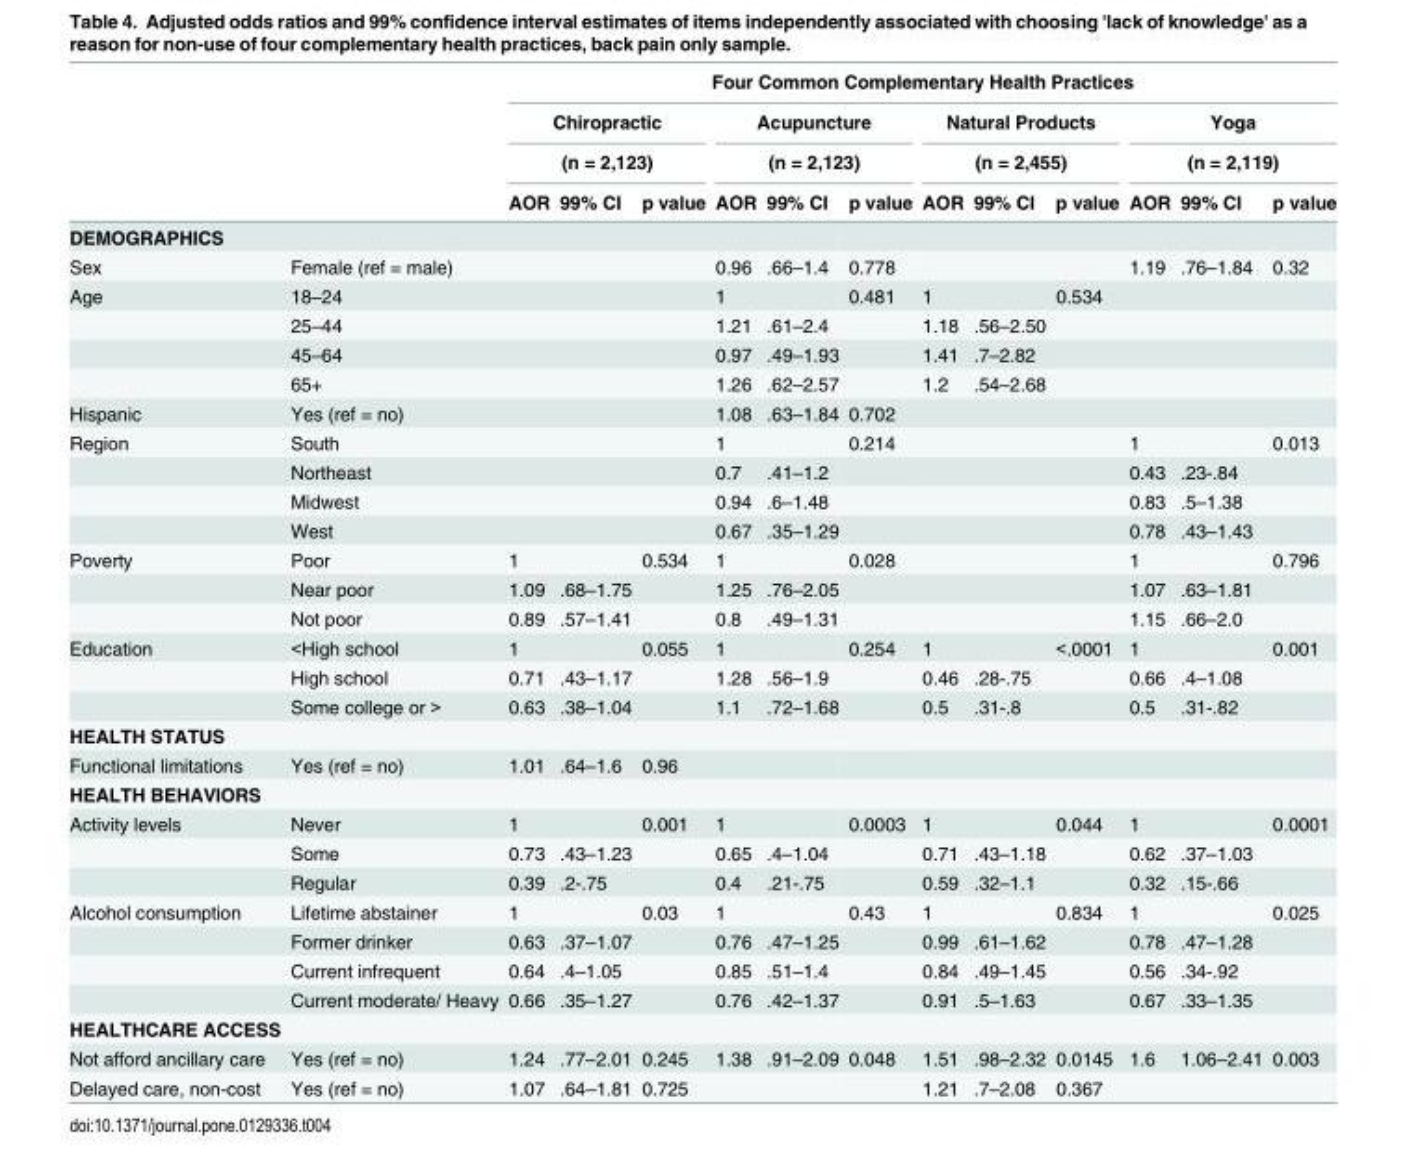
<table><thead><tr><td rowspan="4"></td><td rowspan="4"></td><td colspan="12">Four Common Complementary Health Practices</td></tr><tr><td rowspan="2" colspan="3">Chiropractic (n = 2,123)</td><td rowspan="2" colspan="3">Acupuncture (n = 2,123)</td><td rowspan="2" colspan="3">Natural Products (n = 2,455)</td><td rowspan="2" colspan="3">Yoga (n = 2,119)</td></tr><tr></tr><tr><td>AOR</td><td>99% CI</td><td>p value</td><td>AOR</td><td>99% CI</td><td>p value</td><td>AOR</td><td>99% CI</td><td>p value</td><td>AOR</td><td>99% CI</td><td>p value</td></tr></thead><tbody><tr><td colspan="14">DEMOGRAPHICS</td></tr><tr><td>Sex</td><td>Female (ref = male)</td><td></td><td></td><td></td><td>0.96</td><td>.66–1.4</td><td>0.778</td><td></td><td></td><td></td><td>1.19</td><td>.76–1.84</td><td>0.32</td></tr><tr><td rowspan="4">Age</td><td>18–24</td><td></td><td></td><td></td><td>1</td><td></td><td>0.481</td><td>1</td><td></td><td>0.534</td><td></td><td></td><td></td></tr><tr><td>25–44</td><td></td><td></td><td></td><td>1.21</td><td>.61–2.4</td><td></td><td>1.18</td><td>.56–2.50</td><td></td><td></td><td></td><td></td></tr><tr><td>45–64</td><td></td><td></td><td></td><td>0.97</td><td>.49–1.93</td><td></td><td>1.41</td><td>.7–2.82</td><td></td><td></td><td></td><td></td></tr><tr><td>65+</td><td></td><td></td><td></td><td>1.26</td><td>.62–2.57</td><td></td><td>1.2</td><td>.54–2.68</td><td></td><td></td><td></td><td></td></tr><tr><td>Hispanic</td><td>Yes (ref = no)</td><td></td><td></td><td></td><td>1.08</td><td>.63–1.84</td><td>0.702</td><td></td><td></td><td></td><td></td><td></td><td></td></tr><tr><td rowspan="4">Region</td><td>South</td><td></td><td></td><td></td><td>1</td><td></td><td>0.214</td><td></td><td></td><td></td><td>1</td><td></td><td>0.013</td></tr><tr><td>Northeast</td><td></td><td></td><td></td><td>0.7</td><td>.41–1.2</td><td></td><td></td><td></td><td></td><td>0.43</td><td>.23-.84</td><td></td></tr><tr><td>Midwest</td><td></td><td></td><td></td><td>0.94</td><td>.6–1.48</td><td></td><td></td><td></td><td></td><td>0.83</td><td>.5–1.38</td><td></td></tr><tr><td>West</td><td></td><td></td><td></td><td>0.67</td><td>.35–1.29</td><td></td><td></td><td></td><td></td><td>0.78</td><td>.43–1.43</td><td></td></tr><tr><td rowspan="3">Poverty</td><td>Poor</td><td>1</td><td></td><td>0.534</td><td>1</td><td></td><td>0.028</td><td></td><td></td><td></td><td>1</td><td></td><td>0.796</td></tr><tr><td>Near poor</td><td>1.09</td><td>.68–1.75</td><td></td><td>1.25</td><td>.76–2.05</td><td></td><td></td><td></td><td></td><td>1.07</td><td>.63–1.81</td><td></td></tr><tr><td>Not poor</td><td>0.89</td><td>.57–1.41</td><td></td><td>0.8</td><td>.49–1.31</td><td></td><td></td><td></td><td></td><td>1.15</td><td>.66–2.0</td><td></td></tr><tr><td rowspan="3">Education</td><td>&lt;High school</td><td>1</td><td></td><td>0.055</td><td>1</td><td></td><td>0.254</td><td>1</td><td></td><td>&lt;.0001</td><td>1</td><td></td><td>0.001</td></tr><tr><td>High school</td><td>0.71</td><td>.43–1.17</td><td></td><td>1.28</td><td>.56–1.9</td><td></td><td>0.46</td><td>.28-.75</td><td></td><td>0.66</td><td>.4–1.08</td><td></td></tr><tr><td>Some college or &gt;</td><td>0.63</td><td>.38–1.04</td><td></td><td>1.1</td><td>.72–1.68</td><td></td><td>0.5</td><td>.31-.8</td><td></td><td>0.5</td><td>.31-.82</td><td></td></tr><tr><td colspan="14">HEALTH STATUS</td></tr><tr><td>Functional limitations</td><td>Yes (ref = no)</td><td>1.01</td><td>.64–1.6</td><td>0.96</td><td></td><td></td><td></td><td></td><td></td><td></td><td></td><td></td><td></td></tr><tr><td colspan="14">HEALTH BEHAVIORS</td></tr><tr><td rowspan="3">Activity levels</td><td>Never</td><td>1</td><td></td><td>0.001</td><td>1</td><td></td><td>0.0003</td><td>1</td><td></td><td>0.044</td><td>1</td><td></td><td>0.0001</td></tr><tr><td>Some</td><td>0.73</td><td>.43–1.23</td><td></td><td>0.65</td><td>.4–1.04</td><td></td><td>0.71</td><td>.43–1.18</td><td></td><td>0.62</td><td>.37–1.03</td><td></td></tr><tr><td>Regular</td><td>0.39</td><td>.2-.75</td><td></td><td>0.4</td><td>.21-.75</td><td></td><td>0.59</td><td>.32–1.1</td><td></td><td>0.32</td><td>.15-.66</td><td></td></tr><tr><td rowspan="4">Alcohol consumption</td><td>Lifetime abstainer</td><td>1</td><td></td><td>0.03</td><td>1</td><td></td><td>0.43</td><td>1</td><td></td><td>0.834</td><td>1</td><td></td><td>0.025</td></tr><tr><td>Former drinker</td><td>0.63</td><td>.37–1.07</td><td></td><td>0.76</td><td>.47–1.25</td><td></td><td>0.99</td><td>.61–1.62</td><td></td><td>0.78</td><td>.47–1.28</td><td></td></tr><tr><td>Current infrequent</td><td>0.64</td><td>.4–1.05</td><td></td><td>0.85</td><td>.51–1.4</td><td></td><td>0.84</td><td>.49–1.45</td><td></td><td>0.56</td><td>.34-.92</td><td></td></tr><tr><td>Current moderate/ Heavy</td><td>0.66</td><td>.35–1.27</td><td></td><td>0.76</td><td>.42–1.37</td><td></td><td>0.91</td><td>.5–1.63</td><td></td><td>0.67</td><td>.33–1.35</td><td></td></tr><tr><td colspan="14">HEALTHCARE ACCESS</td></tr><tr><td>Not afford ancillary care</td><td>Yes (ref = no)</td><td>1.24</td><td>.77–2.01</td><td>0.245</td><td>1.38</td><td>.91–2.09</td><td>0.048</td><td>1.51</td><td>.98–2.32</td><td>0.0145</td><td>1.6</td><td>1.06–2.41</td><td>0.003</td></tr><tr><td>Delayed care, non-cost</td><td>Yes (ref = no)</td><td>1.07</td><td>.64–1.81</td><td>0.725</td><td></td><td></td><td></td><td>1.21</td><td>.7–2.08</td><td>0.367</td><td></td><td></td><td></td></tr></tbody></table>